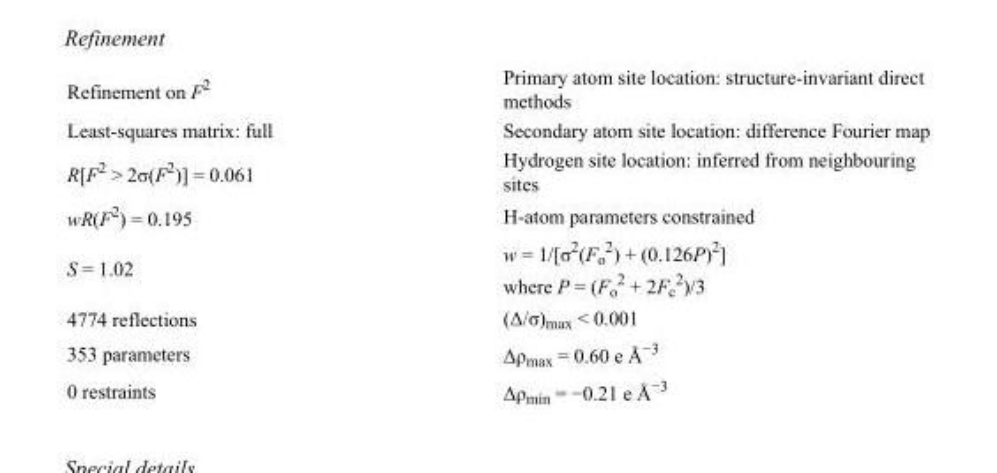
<table><tbody><tr><td>Refinement on F<sup>2</sup></td><td>Primary atom site location: structure-invariant direct methods</td></tr><tr><td>Least-squares matrix: full</td><td>Secondary atom site location: difference Fourier map</td></tr><tr><td>R[F<sup>2</sup> &gt; 2σ(F<sup>2</sup>)] = 0.061</td><td>Hydrogen site location: inferred from neighbouring sites</td></tr><tr><td>wR(F<sup>2</sup>) = 0.195</td><td>H-atom parameters constrained</td></tr><tr><td>S = 1.02</td><td>w = 1/[σ<sup>2</sup>(F<sub>o</sub> <sup>2</sup>) + (0.126P)<sup>2</sup>] where P = (F<sub>o</sub> <sup>2</sup> + 2F<sub>c</sub> <sup>2</sup>)/3</td></tr><tr><td>4774 reflections</td><td>(Δ/σ)<sub>max</sub> &lt; 0.001</td></tr><tr><td>353 parameters</td><td>Δρ<sub>max</sub> = 0.60 e Å<sup>−3</sup></td></tr><tr><td>0 restraints</td><td>Δρ<sub>min</sub> = −0.21 e Å<sup>−3</sup></td></tr></tbody></table>